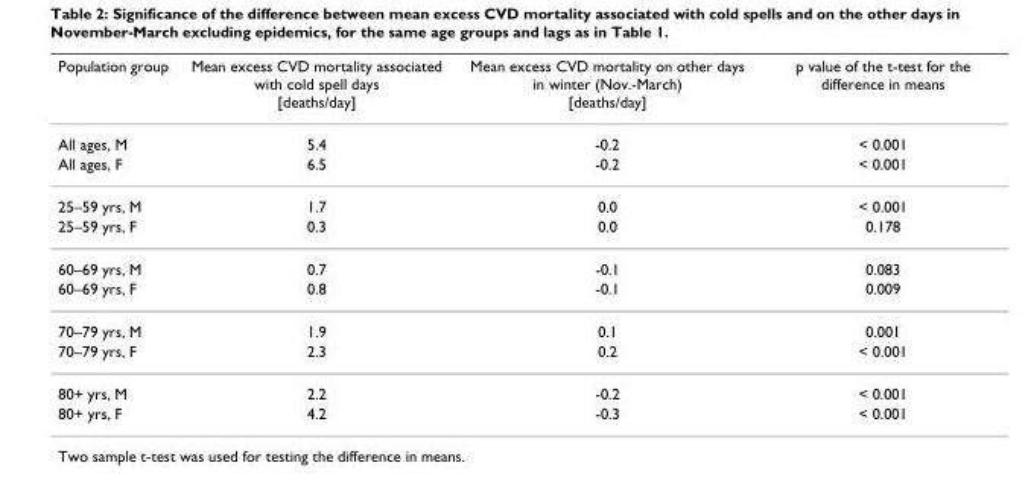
<table><thead><tr><td>Population group</td><td>Mean excess CVD mortality associated with cold spell days [deaths/day]</td><td>Mean excess CVD mortality on other days in winter (Nov.-March) [deaths/day]</td><td>p value of the t-test for the difference in means</td></tr></thead><tbody><tr><td>All ages, M</td><td>5.4</td><td>-0.2</td><td>&lt; 0.001</td></tr><tr><td>All ages, F</td><td>6.5</td><td>-0.2</td><td>&lt; 0.001</td></tr><tr><td>25–59 yrs, M</td><td>1.7</td><td>0.0</td><td>&lt; 0.001</td></tr><tr><td>25–59 yrs, F</td><td>0.3</td><td>0.0</td><td>0.178</td></tr><tr><td>60–69 yrs, M</td><td>0.7</td><td>-0.1</td><td>0.083</td></tr><tr><td>60–69 yrs, F</td><td>0.8</td><td>-0.1</td><td>0.009</td></tr><tr><td>70–79 yrs, M</td><td>1.9</td><td>0.1</td><td>0.001</td></tr><tr><td>70–79 yrs, F</td><td>2.3</td><td>0.2</td><td>&lt; 0.001</td></tr><tr><td>80+ yrs, M</td><td>2.2</td><td>-0.2</td><td>&lt; 0.001</td></tr><tr><td>80+ yrs, F</td><td>4.2</td><td>-0.3</td><td>&lt; 0.001</td></tr></tbody></table>